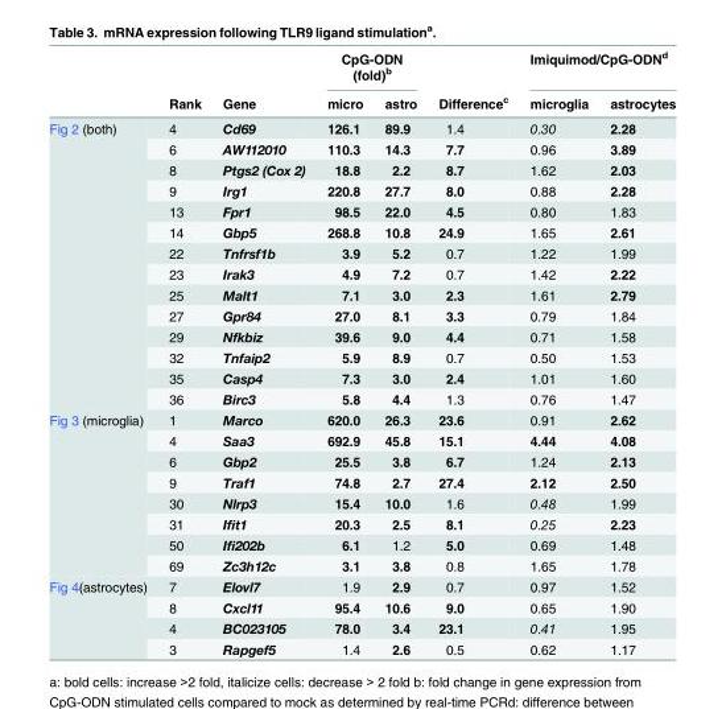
<table><thead><tr><td rowspan="2"></td><td rowspan="2">Rank</td><td rowspan="2">Gene</td><td colspan="2">CpG-ODN (fold)<sup>b</sup></td><td rowspan="2">Difference<sup>c</sup></td><td colspan="2">Imiquimod/CpG-ODN<sup>d</sup></td></tr><tr><td>micro</td><td>astro</td><td>microglia</td><td>astrocytes</td></tr></thead><tbody><tr><td rowspan="14">Fig 2 (both)</td><td>4</td><td>Cd69</td><td>126.1</td><td>89.9</td><td>1.4</td><td>0.30</td><td>2.28</td></tr><tr><td>6</td><td>AW112010</td><td>110.3</td><td>14.3</td><td>7.7</td><td>0.96</td><td>3.89</td></tr><tr><td>8</td><td>Ptgs2 (Cox 2)</td><td>18.8</td><td>2.2</td><td>8.7</td><td>1.62</td><td>2.03</td></tr><tr><td>9</td><td>Irg1</td><td>220.8</td><td>27.7</td><td>8.0</td><td>0.88</td><td>2.28</td></tr><tr><td>13</td><td>Fpr1</td><td>98.5</td><td>22.0</td><td>4.5</td><td>0.80</td><td>1.83</td></tr><tr><td>14</td><td>Gbp5</td><td>268.8</td><td>10.8</td><td>24.9</td><td>1.65</td><td>2.61</td></tr><tr><td>22</td><td>Tnfrsf1b</td><td>3.9</td><td>5.2</td><td>0.7</td><td>1.22</td><td>1.99</td></tr><tr><td>23</td><td>Irak3</td><td>4.9</td><td>7.2</td><td>0.7</td><td>1.42</td><td>2.22</td></tr><tr><td>25</td><td>Malt1</td><td>7.1</td><td>3.0</td><td>2.3</td><td>1.61</td><td>2.79</td></tr><tr><td>27</td><td>Gpr84</td><td>27.0</td><td>8.1</td><td>3.3</td><td>0.79</td><td>1.84</td></tr><tr><td>29</td><td>Nfkbiz</td><td>39.6</td><td>9.0</td><td>4.4</td><td>0.71</td><td>1.58</td></tr><tr><td>32</td><td>Tnfaip2</td><td>5.9</td><td>8.9</td><td>0.7</td><td>0.50</td><td>1.53</td></tr><tr><td>35</td><td>Casp4</td><td>7.3</td><td>3.0</td><td>2.4</td><td>1.01</td><td>1.60</td></tr><tr><td>36</td><td>Birc3</td><td>5.8</td><td>4.4</td><td>1.3</td><td>0.76</td><td>1.47</td></tr><tr><td rowspan="8">Fig 3 (microglia)</td><td>1</td><td>Marco</td><td>620.0</td><td>26.3</td><td>23.6</td><td>0.91</td><td>2.62</td></tr><tr><td>4</td><td>Saa3</td><td>692.9</td><td>45.8</td><td>15.1</td><td>4.44</td><td>4.08</td></tr><tr><td>6</td><td>Gbp2</td><td>25.5</td><td>3.8</td><td>6.7</td><td>1.24</td><td>2.13</td></tr><tr><td>9</td><td>Traf1</td><td>74.8</td><td>2.7</td><td>27.4</td><td>2.12</td><td>2.50</td></tr><tr><td>30</td><td>Nlrp3</td><td>15.4</td><td>10.0</td><td>1.6</td><td>0.48</td><td>1.99</td></tr><tr><td>31</td><td>Ifit1</td><td>20.3</td><td>2.5</td><td>8.1</td><td>0.25</td><td>2.23</td></tr><tr><td>50</td><td>Ifi202b</td><td>6.1</td><td>1.2</td><td>5.0</td><td>0.69</td><td>1.48</td></tr><tr><td>69</td><td>Zc3h12c</td><td>3.1</td><td>3.8</td><td>0.8</td><td>1.65</td><td>1.78</td></tr><tr><td rowspan="4">Fig 4(astrocytes)</td><td>7</td><td>Elovl7</td><td>1.9</td><td>2.9</td><td>0.7</td><td>0.97</td><td>1.52</td></tr><tr><td>8</td><td>Cxcl11</td><td>95.4</td><td>10.6</td><td>9.0</td><td>0.65</td><td>1.90</td></tr><tr><td>4</td><td>BC023105</td><td>78.0</td><td>3.4</td><td>23.1</td><td>0.41</td><td>1.95</td></tr><tr><td>3</td><td>Rapgef5</td><td>1.4</td><td>2.6</td><td>0.5</td><td>0.62</td><td>1.17</td></tr></tbody></table>